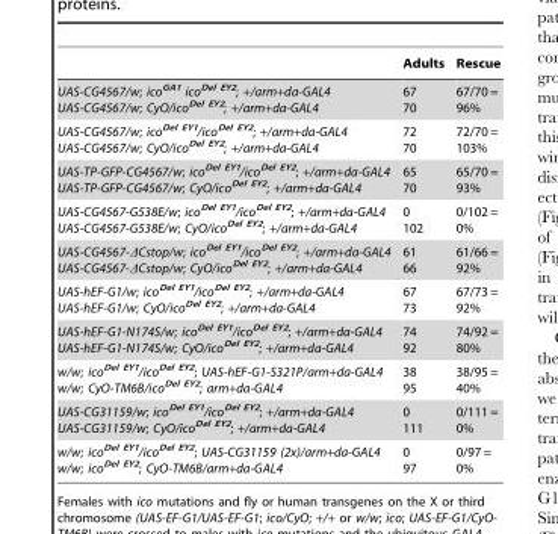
<table><thead><tr><td></td><td>Adults</td><td>Rescue</td></tr></thead><tbody><tr><td>UAS-CG4567/w; ico<sup>GA1</sup> ico<sup>Del EY2</sup>; +/arm+da-GAL4 UAS-CG4567/w; CyO/ico<sup>Del EY2</sup>; +/arm+da-GAL4</td><td>67 70</td><td>67/70 = 96%</td></tr><tr><td>UAS-CG4567/w; ico<sup>Del EY1</sup>/ico<sup>Del EY2</sup>; +/arm+da-GAL4 UAS-CG4567/w; CyO/ico<sup>Del EY2</sup>; +/arm+da-GAL4</td><td>72 70</td><td>72/70 = 103%</td></tr><tr><td>UAS-TP-GFP-CG4567/w; ico<sup>Del EY1</sup>/ico<sup>Del EY2</sup>; +/arm+da-GAL4 UAS-TP-GFP-CG4567/w; CyO/ico<sup>Del EY2</sup>; +/arm+da-GAL4</td><td>65 70</td><td>65/70 = 93%</td></tr><tr><td>UAS-CG4567-G538E/w; ico<sup>Del EY1</sup>/ico<sup>Del EY2</sup>; +/arm+da-GAL4 UAS-CG4567-G538E/w; CyO/ico<sup>Del EY2</sup>; +/arm+da-GAL4</td><td>0 102</td><td>0/102 = 0%</td></tr><tr><td>UAS-CG4567-ΔCstop/w; ico<sup>Del EY1</sup>/ico<sup>Del EY2</sup>; +/arm+da-GAL4 UAS-CG4567-ΔCstop/w; CyO/ico<sup>Del EY2</sup>; +/arm+da-GAL4</td><td>61 66</td><td>61/66 = 92%</td></tr><tr><td>UAS-hEF-G1/w; ico<sup>Del EY1</sup>/ico<sup>Del EY2</sup>; +/arm+da-GAL4 UAS-hEF-G1/w; CyO/ico<sup>Del EY2</sup>; +/arm+da-GAL4</td><td>67 73</td><td>67/73 = 92%</td></tr><tr><td>UAS-hEF-G1-N174S/w; ico<sup>Del EY1</sup>/ico<sup>Del EY2</sup>; +/arm+da-GAL4 UAS-hEF-G1-N174S/w; CyO/ico<sup>Del EY2</sup>; +/arm+da-GAL4</td><td>74 92</td><td>74/92 = 80%</td></tr><tr><td>w/w; ico<sup>Del EY1</sup>/ico<sup>Del EY2</sup>; UAS-hEF-G1-S321P/arm+da-GAL4 w/w; CyO-TM6B/ico<sup>Del EY2</sup>; arm+da-GAL4</td><td>38 95</td><td>38/95 = 40%</td></tr><tr><td>UAS-CG31159/w; ico<sup>Del EY1</sup>/ico<sup>Del EY2</sup>; +/arm+da-GAL4 UAS-CG31159/w; CyO/ico<sup>Del EY2</sup>; +/arm+da-GAL4</td><td>0 111</td><td>0/111 = 0%</td></tr><tr><td>w/w; ico<sup>Del EY1</sup>/ico<sup>Del EY2</sup>; UAS-CG31159 (2x)/arm+da-GAL4 w/w; ico<sup>Del EY2</sup>; CyO-TM6B/arm+da-GAL4</td><td>0 97</td><td>0/97 = 0%</td></tr></tbody></table>